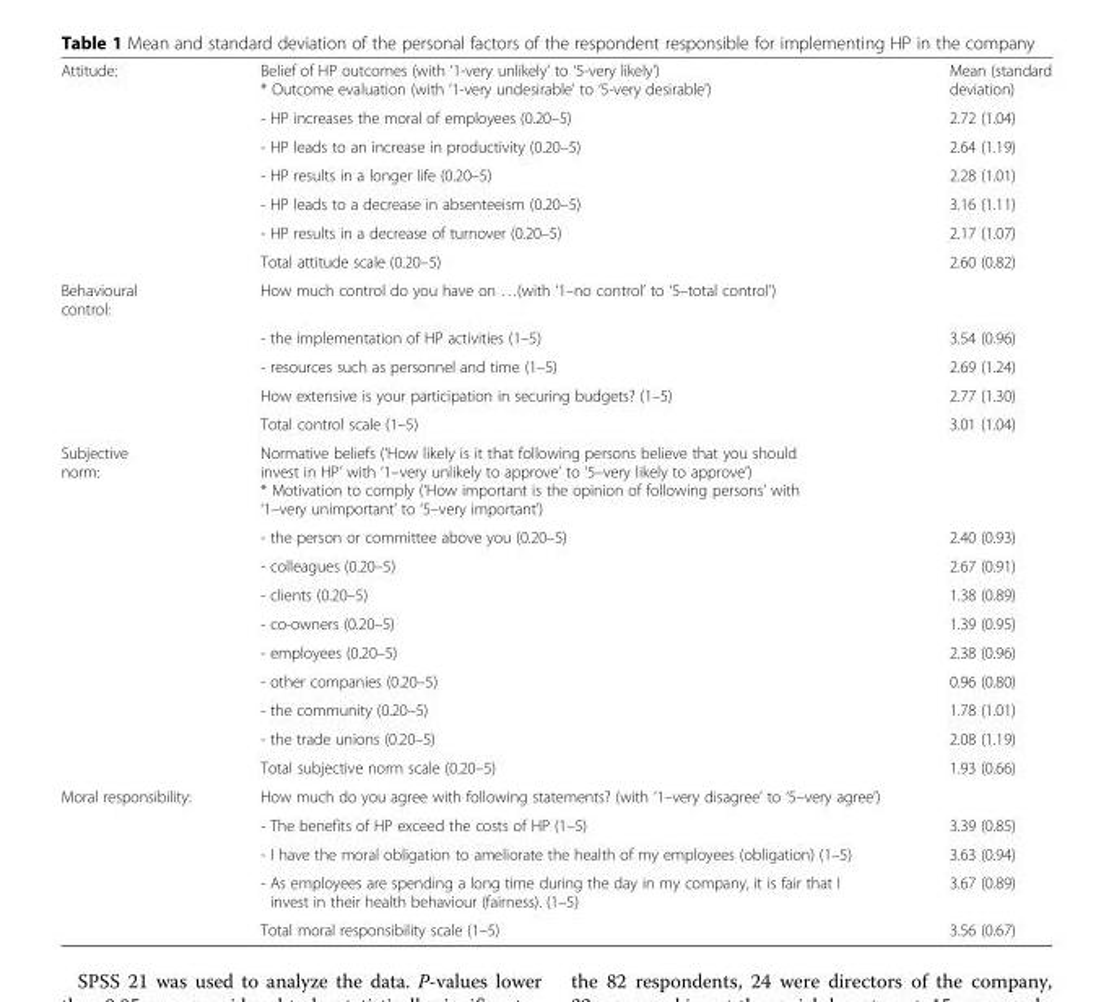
<table><tbody><tr><td rowspan="7">Attitude:</td><td>Belief of HP outcomes (with ‘1-very unlikely’ to ‘5-very likely’) * Outcome evaluation (with ‘1-very undesirable’ to ‘5-very desirable’)</td><td>Mean (standard deviation)</td></tr><tr><td>- HP increases the moral of employees (0.20–5)</td><td>2.72 (1.04)</td></tr><tr><td>- HP leads to an increase in productivity (0.20–5)</td><td>2.64 (1.19)</td></tr><tr><td>- HP results in a longer life (0.20–5)</td><td>2.28 (1.01)</td></tr><tr><td>- HP leads to a decrease in absenteeism (0.20–5)</td><td>3.16 (1.11)</td></tr><tr><td>- HP results in a decrease of turnover (0.20–5)</td><td>2.17 (1.07)</td></tr><tr><td>Total attitude scale (0.20–5)</td><td>2.60 (0.82)</td></tr><tr><td rowspan="5">Behavioural control:</td><td>How much control do you have on …(with ‘1–no control’ to ‘5–total control’)</td><td></td></tr><tr><td>- the implementation of HP activities (1–5)</td><td>3.54 (0.96)</td></tr><tr><td>- resources such as personnel and time (1–5)</td><td>2.69 (1.24)</td></tr><tr><td>How extensive is your participation in securing budgets? (1–5)</td><td>2.77 (1.30)</td></tr><tr><td>Total control scale (1–5)</td><td>3.01 (1.04)</td></tr><tr><td rowspan="10">Subjective norm:</td><td>Normative beliefs (‘How likely is it that following persons believe that you should invest in HP’ with ‘1–very unlikely to approve’ to ‘5–very likely to approve’) * Motivation to comply (‘How important is the opinion of following persons’ with ‘1–very unimportant’ to ‘5–very important’)</td><td></td></tr><tr><td>- the person or committee above you (0.20–5)</td><td>2.40 (0.93)</td></tr><tr><td>- colleagues (0.20–5)</td><td>2.67 (0.91)</td></tr><tr><td>- clients (0.20–5)</td><td>1.38 (0.89)</td></tr><tr><td>- co-owners (0.20–5)</td><td>1.39 (0.95)</td></tr><tr><td>- employees (0.20–5)</td><td>2.38 (0.96)</td></tr><tr><td>- other companies (0.20–5)</td><td>0.96 (0.80)</td></tr><tr><td>- the community (0.20–5)</td><td>1.78 (1.01)</td></tr><tr><td>- the trade unions (0.20–5)</td><td>2.08 (1.19)</td></tr><tr><td>Total subjective norm scale (0.20–5)</td><td>1.93 (0.66)</td></tr><tr><td rowspan="5">Moral responsibility:</td><td>How much do you agree with following statements? (with ‘1–very disagree’ to ‘5–very agree’)</td><td></td></tr><tr><td>- The benefits of HP exceed the costs of HP (1–5)</td><td>3.39 (0.85)</td></tr><tr><td>- I have the moral obligation to ameliorate the health of my employees (obligation) (1–5)</td><td>3.63 (0.94)</td></tr><tr><td>- As employees are spending a long time during the day in my company, it is fair that I invest in their health behaviour (fairness). (1–5)</td><td>3.67 (0.89)</td></tr><tr><td>Total moral responsibility scale (1–5)</td><td>3.56 (0.67)</td></tr></tbody></table>